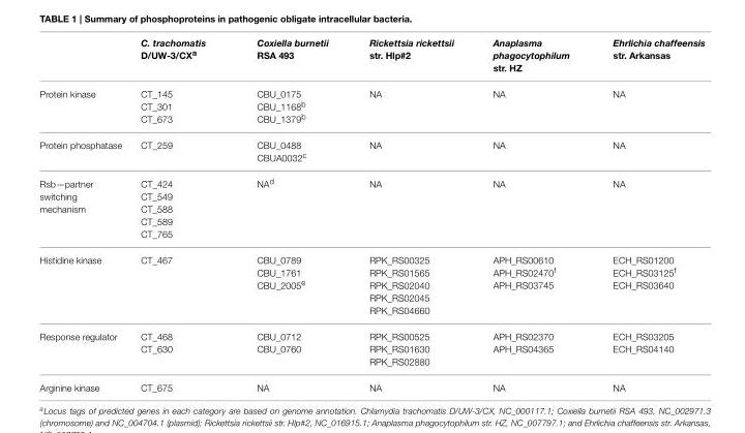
<table><thead><tr><td></td><td>C. trachomatis D/UW-3/CX<sup>a</sup></td><td>Coxiella burnetii RSA 493</td><td>Rickettsia rickettsii str. Hlp#2</td><td>Anaplasma phagocytophilum str. HZ</td><td>Ehrlichia chaffeensis str. Arkansas</td></tr></thead><tbody><tr><td>Protein kinase</td><td>CT_145 CT_301 CT_673</td><td>CBU_0175 CBU_1168<sup>b</sup> CBU_1379<sup>b</sup></td><td>NA</td><td>NA</td><td>NA</td></tr><tr><td>Protein phosphatase</td><td>CT_259</td><td>CBU_0488 CBUA0032<sup>c</sup></td><td>NA</td><td>NA</td><td>NA</td></tr><tr><td>Rsb—partner switching mechanism</td><td>CT_424 CT_549 CT_588 CT_589 CT_765</td><td>NA<sup>d</sup></td><td>NA</td><td>NA</td><td>NA</td></tr><tr><td>Histidine kinase</td><td>CT_467</td><td>CBU_0789 CBU_1761 CBU_2005<sup>e</sup></td><td>RPK_RS00325 RPK_RS01565 RPK_RS02040 RPK_RS02045 RPK_RS04660</td><td>APH_RS00610 APH_RS02470<sup>f</sup> APH_RS03745</td><td>ECH_RS01200 ECH_RS03125<sup>f</sup> ECH_RS03640</td></tr><tr><td>Response regulator</td><td>CT_468 CT_630</td><td>CBU_0712 CBU_0760</td><td>RPK_RS00525 RPK_RS01630 RPK_RS02880</td><td>APH_RS02370 APH_RS04365</td><td>ECH_RS03205 ECH_RS04140</td></tr><tr><td>Arginine kinase</td><td>CT_675</td><td>NA</td><td>NA</td><td>NA</td><td>NA</td></tr></tbody></table>